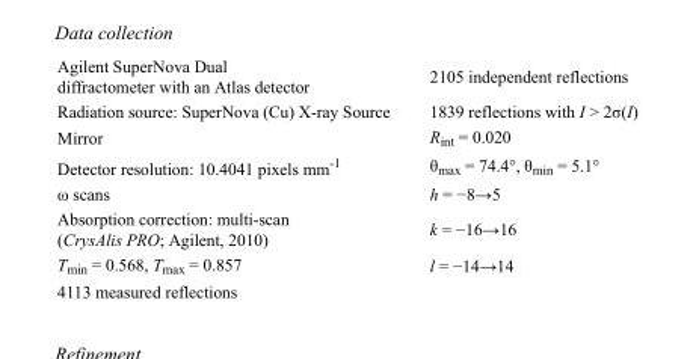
<table><tbody><tr><td>Agilent SuperNova Dual diffractometer with an Atlas detector</td><td>2105 independent reflections</td></tr><tr><td>Radiation source: SuperNova (Cu) X-ray Source</td><td>1839 reflections with I &gt; 2σ(I)</td></tr><tr><td>Mirror</td><td>R<sub>int</sub> = 0.020</td></tr><tr><td>Detector resolution: 10.4041 pixels mm<sup>-1</sup></td><td>θ<sub>max</sub> = 74.4°, θ<sub>min</sub> = 5.1°</td></tr><tr><td>ω scans</td><td>h = −8→5</td></tr><tr><td>Absorption correction: multi-scan (CrysAlis PRO; Agilent, 2010)</td><td>k = −16→16</td></tr><tr><td>T<sub>min</sub> = 0.568, T<sub>max</sub> = 0.857</td><td>l = −14→14</td></tr><tr><td>4113 measured reflections</td><td></td></tr></tbody></table>